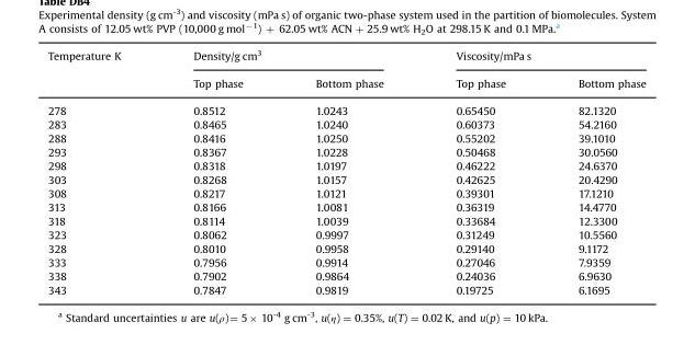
<table><thead><tr><td rowspan="2">Temperature K</td><td colspan="2">Density/g cm<sup>3</sup></td><td colspan="2">Viscosity/mPa s</td></tr><tr><td>Top phase</td><td>Bottom phase</td><td>Top phase</td><td>Bottom phase</td></tr></thead><tbody><tr><td>278</td><td>0.8512</td><td>1.0243</td><td>0.65450</td><td>82.1320</td></tr><tr><td>283</td><td>0.8465</td><td>1.0240</td><td>0.60373</td><td>54.2160</td></tr><tr><td>288</td><td>0.8416</td><td>1.0250</td><td>0.55202</td><td>39.1010</td></tr><tr><td>293</td><td>0.8367</td><td>1.0228</td><td>0.50468</td><td>30.0560</td></tr><tr><td>298</td><td>0.8318</td><td>1.0197</td><td>0.46222</td><td>24.6370</td></tr><tr><td>303</td><td>0.8268</td><td>1.0157</td><td>0.42625</td><td>20.4290</td></tr><tr><td>308</td><td>0.8217</td><td>1.0121</td><td>0.39301</td><td>17.1210</td></tr><tr><td>313</td><td>0.8166</td><td>1.0081</td><td>0.36319</td><td>14.4770</td></tr><tr><td>318</td><td>0.8114</td><td>1.0039</td><td>0.33684</td><td>12.3300</td></tr><tr><td>323</td><td>0.8062</td><td>0.9997</td><td>0.31249</td><td>10.5560</td></tr><tr><td>328</td><td>0.8010</td><td>0.9958</td><td>0.29140</td><td>9.1172</td></tr><tr><td>333</td><td>0.7956</td><td>0.9914</td><td>0.27046</td><td>7.9359</td></tr><tr><td>338</td><td>0.7902</td><td>0.9864</td><td>0.24036</td><td>6.9630</td></tr><tr><td>343</td><td>0.7847</td><td>0.9819</td><td>0.19725</td><td>6.1695</td></tr></tbody></table>